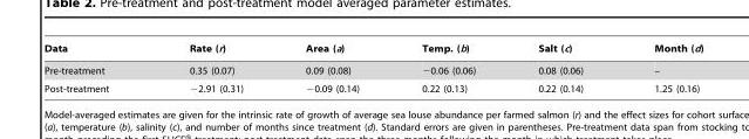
<table><thead><tr><td>Data</td><td>Rate (r)</td><td>Area (a)</td><td>Temp. (b)</td><td>Salt (c)</td><td>Month (d)</td></tr></thead><tbody><tr><td>Pre-treatment</td><td>0.35 (0.07)</td><td>0.09 (0.08)</td><td>−0.06 (0.06)</td><td>0.08 (0.06)</td><td>–</td></tr><tr><td>Post-treatment</td><td>−2.91 (0.31)</td><td>−0.09 (0.14)</td><td>0.22 (0.13)</td><td>0.22 (0.14)</td><td>1.25 (0.16)</td></tr></tbody></table>